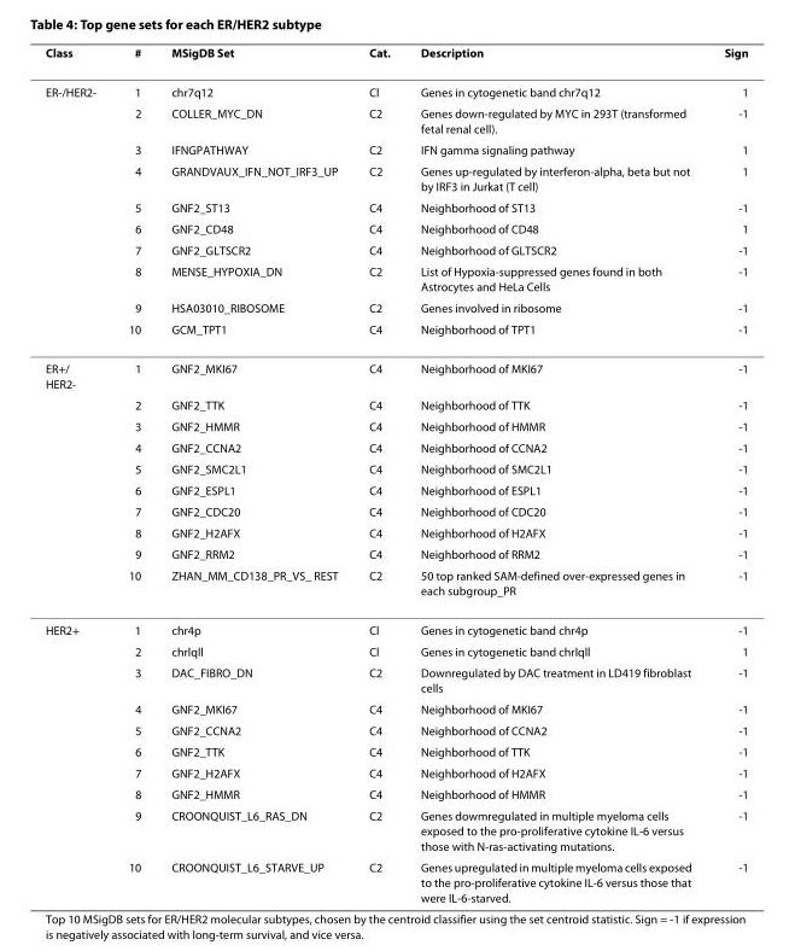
<table><thead><tr><td>Class</td><td>#</td><td>MSigDB Set</td><td>Cat.</td><td>Description</td><td>Sign</td></tr></thead><tbody><tr><td rowspan="10">ER-/HER2-</td><td>1</td><td>chr7q12</td><td>Cl</td><td>Genes in cytogenetic band chr7q12</td><td>1</td></tr><tr><td>2</td><td>COLLER_MYC_DN</td><td>C2</td><td>Genes down-regulated by MYC in 293T (transformed fetal renal cell).</td><td>-1</td></tr><tr><td>3</td><td>IFNGPATHWAY</td><td>C2</td><td>IFN gamma signaling pathway</td><td>1</td></tr><tr><td>4</td><td>GRANDVAUX_IFN_NOT_IRF3_UP</td><td>C2</td><td>Genes up-regulated by interferon-alpha, beta but not by IRF3 in Jurkat (T cell)</td><td>1</td></tr><tr><td>5</td><td>GNF2_ST13</td><td>C4</td><td>Neighborhood of ST13</td><td>-1</td></tr><tr><td>6</td><td>GNF2_CD48</td><td>C4</td><td>Neighborhood of CD48</td><td>1</td></tr><tr><td>7</td><td>GNF2_GLTSCR2</td><td>C4</td><td>Neighborhood of GLTSCR2</td><td>-1</td></tr><tr><td>8</td><td>MENSE_HYPOXIA_DN</td><td>C2</td><td>List of Hypoxia-suppressed genes found in both Astrocytes and HeLa Cells</td><td>-1</td></tr><tr><td>9</td><td>HSA03010_RIBOSOME</td><td>C2</td><td>Genes involved in ribosome</td><td>-1</td></tr><tr><td>10</td><td>GCM_TPT1</td><td>C4</td><td>Neighborhood of TPT1</td><td>-1</td></tr><tr><td rowspan="10">ER+/ HER2-</td><td>1</td><td>GNF2_MKI67</td><td>C4</td><td>Neighborhood of MKI67</td><td>-1</td></tr><tr><td>2</td><td>GNF2_TTK</td><td>C4</td><td>Neighborhood of TTK</td><td>-1</td></tr><tr><td>3</td><td>GNF2_HMMR</td><td>C4</td><td>Neighborhood of HMMR</td><td>-1</td></tr><tr><td>4</td><td>GNF2_CCNA2</td><td>C4</td><td>Neighborhood of CCNA2</td><td>-1</td></tr><tr><td>5</td><td>GNF2_SMC2L1</td><td>C4</td><td>Neighborhood of SMC2L1</td><td>-1</td></tr><tr><td>6</td><td>GNF2_ESPL1</td><td>C4</td><td>Neighborhood of ESPL1</td><td>-1</td></tr><tr><td>7</td><td>GNF2_CDC20</td><td>C4</td><td>Neighborhood of CDC20</td><td>-1</td></tr><tr><td>8</td><td>GNF2_H2AFX</td><td>C4</td><td>Neighborhood of H2AFX</td><td>-1</td></tr><tr><td>9</td><td>GNF2_RRM2</td><td>C4</td><td>Neighborhood of RRM2</td><td>-1</td></tr><tr><td>10</td><td>ZHAN_MM_CD138_PR_VS_ REST</td><td>C2</td><td>50 top ranked SAM-defined over-expressed genes in each subgroup_PR</td><td>-1</td></tr><tr><td rowspan="10">HER2+</td><td>1</td><td>chr4p</td><td>Cl</td><td>Genes in cytogenetic band chr4p</td><td>-1</td></tr><tr><td>2</td><td>chrlqll</td><td>Cl</td><td>Genes in cytogenetic band chrlqll</td><td>1</td></tr><tr><td>3</td><td>DAC_FIBRO_DN</td><td>C2</td><td>Downregulated by DAC treatment in LD419 fibroblast cells</td><td>-1</td></tr><tr><td>4</td><td>GNF2_MKI67</td><td>C4</td><td>Neighborhood of MKI67</td><td>-1</td></tr><tr><td>5</td><td>GNF2_CCNA2</td><td>C4</td><td>Neighborhood of CCNA2</td><td>-1</td></tr><tr><td>6</td><td>GNF2_TTK</td><td>C4</td><td>Neighborhood of TTK</td><td>-1</td></tr><tr><td>7</td><td>GNF2_H2AFX</td><td>C4</td><td>Neighborhood of H2AFX</td><td>-1</td></tr><tr><td>8</td><td>GNF2_HMMR</td><td>C4</td><td>Neighborhood of HMMR</td><td>-1</td></tr><tr><td>9</td><td>CROONQUIST_L6_RAS_DN</td><td>C2</td><td>Genes dowmregulated in multiple myeloma cells exposed to the pro-proliferative cytokine IL-6 versus those with N-ras-activating mutations.</td><td>-1</td></tr><tr><td>10</td><td>CROONQUIST_L6_STARVE_UP</td><td>C2</td><td>Genes upregulated in multiple myeloma cells exposed to the pro-proliferative cytokine IL-6 versus those that were IL-6-starved.</td><td>-1</td></tr></tbody></table>